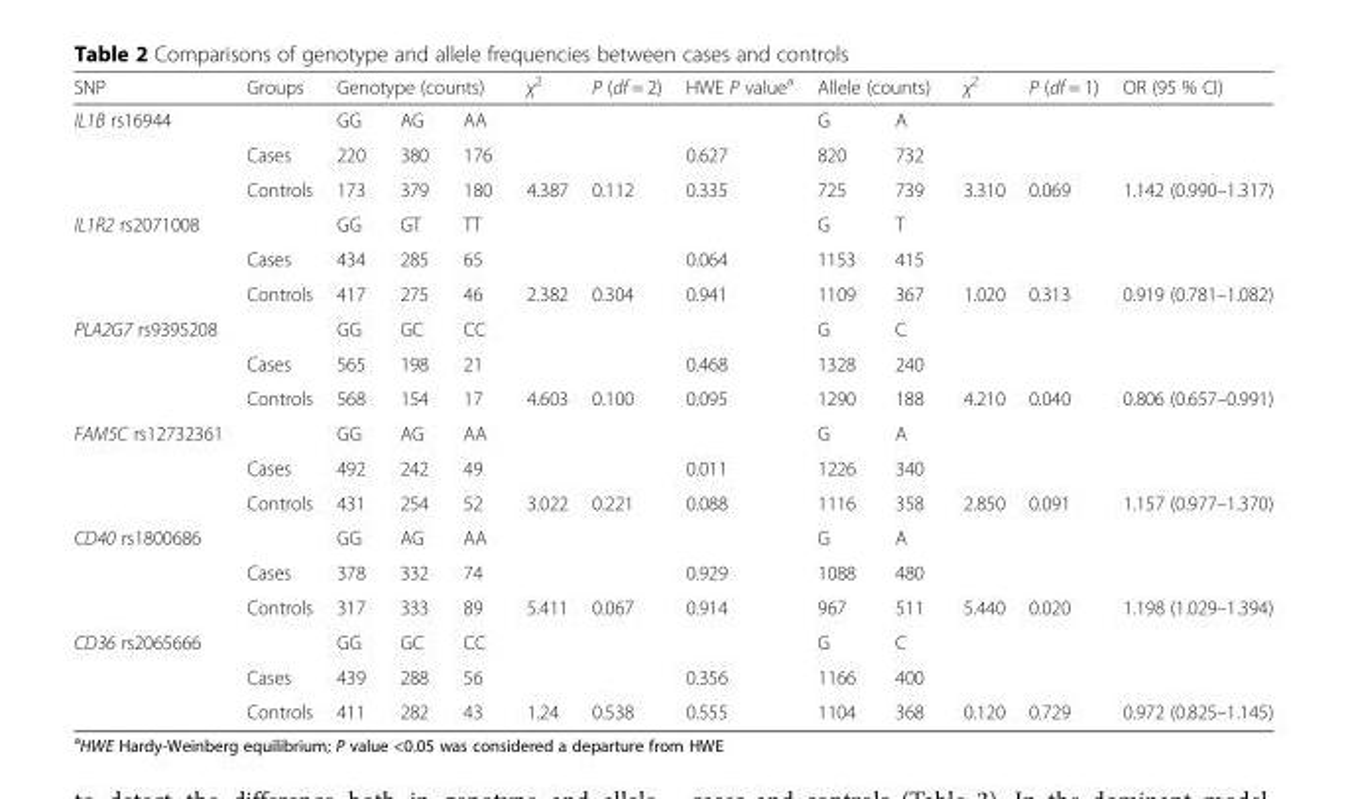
<table><thead><tr><td rowspan="2">SNP IL1B rs16944</td><td rowspan="2">Groups</td><td colspan="3">Genotype (counts)</td><td rowspan="2">χ<sup>2</sup></td><td rowspan="2">P (df = 2)</td><td rowspan="2">HWE P value<sup>a</sup></td><td colspan="2">Allele (counts)</td><td rowspan="2">χ<sup>2</sup></td><td rowspan="2">P (df = 1)</td><td rowspan="2">OR (95 % CI)</td></tr><tr><td>GG</td><td>AG</td><td>AA</td><td>G</td><td>A</td></tr></thead><tbody><tr><td></td><td>Cases</td><td>220</td><td>380</td><td>176</td><td></td><td></td><td>0.627</td><td>820</td><td>732</td><td></td><td></td><td></td></tr><tr><td></td><td>Controls</td><td>173</td><td>379</td><td>180</td><td>4.387</td><td>0.112</td><td>0.335</td><td>725</td><td>739</td><td>3.310</td><td>0.069</td><td>1.142 (0.990–1.317)</td></tr><tr><td rowspan="3">IL1R2 rs2071008</td><td></td><td>GG</td><td>GT</td><td>TT</td><td></td><td></td><td></td><td>G</td><td>T</td><td></td><td></td><td></td></tr><tr><td>Cases</td><td>434</td><td>285</td><td>65</td><td></td><td></td><td>0.064</td><td>1153</td><td>415</td><td></td><td></td><td></td></tr><tr><td>Controls</td><td>417</td><td>275</td><td>46</td><td>2.382</td><td>0.304</td><td>0.941</td><td>1109</td><td>367</td><td>1.020</td><td>0.313</td><td>0.919 (0.781–1.082)</td></tr><tr><td rowspan="3">PLA2G7 rs9395208</td><td></td><td>GG</td><td>GC</td><td>CC</td><td></td><td></td><td></td><td>G</td><td>C</td><td></td><td></td><td></td></tr><tr><td>Cases</td><td>565</td><td>198</td><td>21</td><td></td><td></td><td>0.468</td><td>1328</td><td>240</td><td></td><td></td><td></td></tr><tr><td>Controls</td><td>568</td><td>154</td><td>17</td><td>4.603</td><td>0.100</td><td>0.095</td><td>1290</td><td>188</td><td>4.210</td><td>0.040</td><td>0.806 (0.657–0.991)</td></tr><tr><td rowspan="3">FAM5C rs12732361</td><td></td><td>GG</td><td>AG</td><td>AA</td><td></td><td></td><td></td><td>G</td><td>A</td><td></td><td></td><td></td></tr><tr><td>Cases</td><td>492</td><td>242</td><td>49</td><td></td><td></td><td>0.011</td><td>1226</td><td>340</td><td></td><td></td><td></td></tr><tr><td>Controls</td><td>431</td><td>254</td><td>52</td><td>3.022</td><td>0.221</td><td>0.088</td><td>1116</td><td>358</td><td>2.850</td><td>0.091</td><td>1.157 (0.977–1.370)</td></tr><tr><td rowspan="3">CD40 rs1800686</td><td></td><td>GG</td><td>AG</td><td>AA</td><td></td><td></td><td></td><td>G</td><td>A</td><td></td><td></td><td></td></tr><tr><td>Cases</td><td>378</td><td>332</td><td>74</td><td></td><td></td><td>0.929</td><td>1088</td><td>480</td><td></td><td></td><td></td></tr><tr><td>Controls</td><td>317</td><td>333</td><td>89</td><td>5.411</td><td>0.067</td><td>0.914</td><td>967</td><td>511</td><td>5.440</td><td>0.020</td><td>1.198 (1.029–1.394)</td></tr><tr><td rowspan="3">CD36 rs2065666</td><td></td><td>GG</td><td>GC</td><td>CC</td><td></td><td></td><td></td><td>G</td><td>C</td><td></td><td></td><td></td></tr><tr><td>Cases</td><td>439</td><td>288</td><td>56</td><td></td><td></td><td>0.356</td><td>1166</td><td>400</td><td></td><td></td><td></td></tr><tr><td>Controls</td><td>411</td><td>282</td><td>43</td><td>1.24</td><td>0.538</td><td>0.555</td><td>1104</td><td>368</td><td>0.120</td><td>0.729</td><td>0.972 (0.825–1.145)</td></tr></tbody></table>